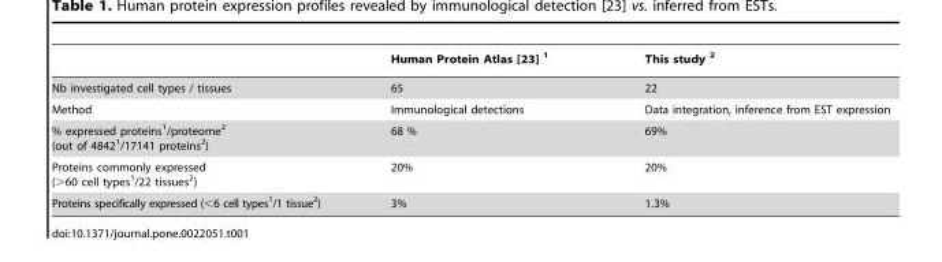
<table><thead><tr><td></td><td>Human Protein Atlas [23] <sup>1</sup></td><td>This study <sup>2</sup></td></tr></thead><tbody><tr><td>Nb investigated cell types / tissues</td><td>65</td><td>22</td></tr><tr><td>Method</td><td>Immunological detections</td><td>Data integration, inference from EST expression</td></tr><tr><td>% expressed proteins<sup>1</sup>/proteome<sup>2</sup> (out of 4842<sup>1</sup>/17141 proteins<sup>2</sup>)</td><td>68 %</td><td>69%</td></tr><tr><td>Proteins commonly expressed (&gt;60 cell types<sup>1</sup>/22 tissues<sup>2</sup>)</td><td>20%</td><td>20%</td></tr><tr><td>Proteins specifically expressed (&lt;6 cell types<sup>1</sup>/1 tissue<sup>2</sup>)</td><td>3%</td><td>1.3%</td></tr></tbody></table>